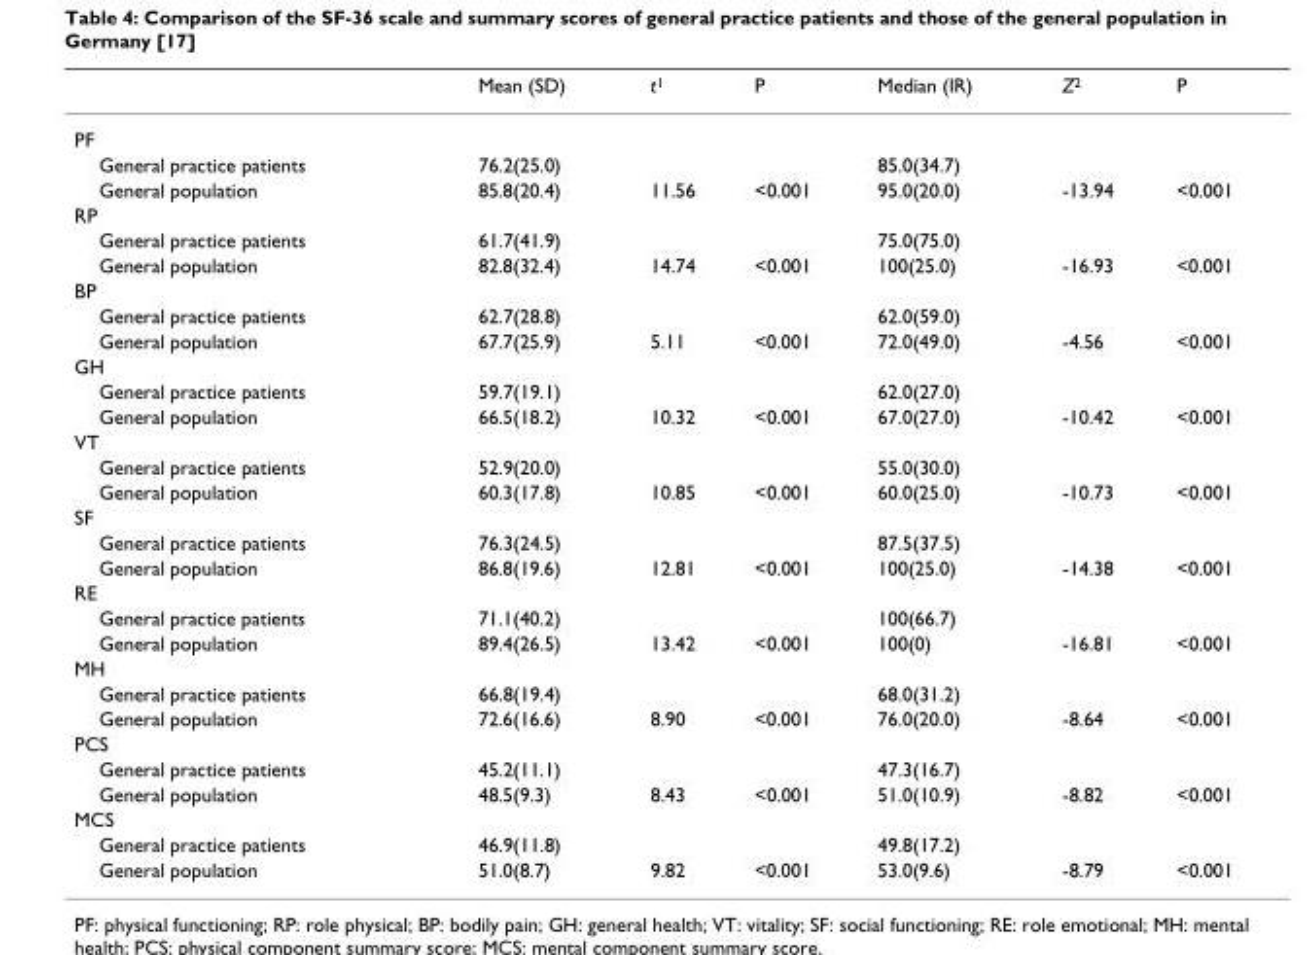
<table><thead><tr><td></td><td>Mean (SD)</td><td>t<sup>1</sup></td><td>P</td><td>Median (IR)</td><td>Z<sup>2</sup></td><td>P</td></tr></thead><tbody><tr><td colspan="7">PF</td></tr><tr><td>General practice patients</td><td>76.2(25.0)</td><td></td><td></td><td>85.0(34.7)</td><td></td><td></td></tr><tr><td>General population</td><td>85.8(20.4)</td><td>11.56</td><td>&lt;0.001</td><td>95.0(20.0)</td><td>-13.94</td><td>&lt;0.001</td></tr><tr><td colspan="7">RP</td></tr><tr><td>General practice patients</td><td>61.7(41.9)</td><td></td><td></td><td>75.0(75.0)</td><td></td><td></td></tr><tr><td>General population</td><td>82.8(32.4)</td><td>14.74</td><td>&lt;0.001</td><td>100(25.0)</td><td>-16.93</td><td>&lt;0.001</td></tr><tr><td colspan="7">BP</td></tr><tr><td>General practice patients</td><td>62.7(28.8)</td><td></td><td></td><td>62.0(59.0)</td><td></td><td></td></tr><tr><td>General population</td><td>67.7(25.9)</td><td>5.11</td><td>&lt;0.001</td><td>72.0(49.0)</td><td>-4.56</td><td>&lt;0.001</td></tr><tr><td colspan="7">GH</td></tr><tr><td>General practice patients</td><td>59.7(19.1)</td><td></td><td></td><td>62.0(27.0)</td><td></td><td></td></tr><tr><td>General population</td><td>66.5(18.2)</td><td>10.32</td><td>&lt;0.001</td><td>67.0(27.0)</td><td>-10.42</td><td>&lt;0.001</td></tr><tr><td colspan="7">VT</td></tr><tr><td>General practice patients</td><td>52.9(20.0)</td><td></td><td></td><td>55.0(30.0)</td><td></td><td></td></tr><tr><td>General population</td><td>60.3(17.8)</td><td>10.85</td><td>&lt;0.001</td><td>60.0(25.0)</td><td>-10.73</td><td>&lt;0.001</td></tr><tr><td colspan="7">SF</td></tr><tr><td>General practice patients</td><td>76.3(24.5)</td><td></td><td></td><td>87.5(37.5)</td><td></td><td></td></tr><tr><td>General population</td><td>86.8(19.6)</td><td>12.81</td><td>&lt;0.001</td><td>100(25.0)</td><td>-14.38</td><td>&lt;0.001</td></tr><tr><td colspan="7">RE</td></tr><tr><td>General practice patients</td><td>71.1(40.2)</td><td></td><td></td><td>100(66.7)</td><td></td><td></td></tr><tr><td>General population</td><td>89.4(26.5)</td><td>13.42</td><td>&lt;0.001</td><td>100(0)</td><td>-16.81</td><td>&lt;0.001</td></tr><tr><td colspan="7">MH</td></tr><tr><td>General practice patients</td><td>66.8(19.4)</td><td></td><td></td><td>68.0(31.2)</td><td></td><td></td></tr><tr><td>General population</td><td>72.6(16.6)</td><td>8.90</td><td>&lt;0.001</td><td>76.0(20.0)</td><td>-8.64</td><td>&lt;0.001</td></tr><tr><td colspan="7">PCS</td></tr><tr><td>General practice patients</td><td>45.2(11.1)</td><td></td><td></td><td>47.3(16.7)</td><td></td><td></td></tr><tr><td>General population</td><td>48.5(9.3)</td><td>8.43</td><td>&lt;0.001</td><td>51.0(10.9)</td><td>-8.82</td><td>&lt;0.001</td></tr><tr><td colspan="7">MCS</td></tr><tr><td>General practice patients</td><td>46.9(11.8)</td><td></td><td></td><td>49.8(17.2)</td><td></td><td></td></tr><tr><td>General population</td><td>51.0(8.7)</td><td>9.82</td><td>&lt;0.001</td><td>53.0(9.6)</td><td>-8.79</td><td>&lt;0.001</td></tr></tbody></table>